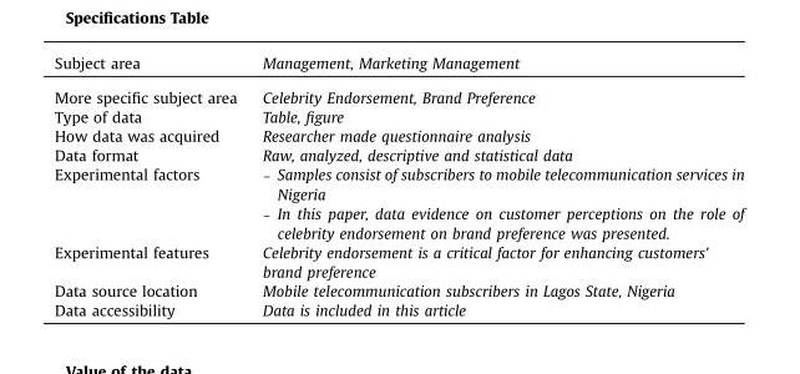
<table><thead><tr><td>Subject area</td><td>Management, Marketing Management</td></tr></thead><tbody><tr><td>More specific subject area</td><td>Celebrity Endorsement, Brand Preference</td></tr><tr><td>Type of data</td><td>Table, figure</td></tr><tr><td>How data was acquired</td><td>Researcher made questionnaire analysis</td></tr><tr><td>Data format</td><td>Raw, analyzed, descriptive and statistical data</td></tr><tr><td>Experimental factors</td><td>– Samples consist of subscribers to mobile telecommunication services in Nigeria – In this paper, data evidence on customer perceptions on the role of celebrity endorsement on brand preference was presented.</td></tr><tr><td>Experimental features</td><td>Celebrity endorsement is a critical factor for enhancing customers’ brand preference</td></tr><tr><td>Data source location</td><td>Mobile telecommunication subscribers in Lagos State, Nigeria</td></tr><tr><td>Data accessibility</td><td>Data is included in this article</td></tr></tbody></table>